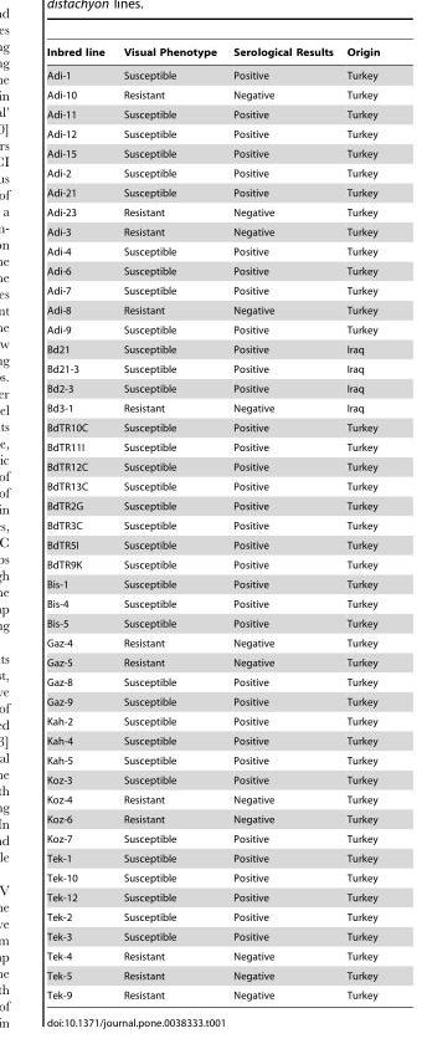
<table><thead><tr><td>Inbred line</td><td>Visual Phenotype</td><td>Serological Results</td><td>Origin</td></tr></thead><tbody><tr><td>Adi-1</td><td>Susceptible</td><td>Positive</td><td>Turkey</td></tr><tr><td>Adi-10</td><td>Resistant</td><td>Negative</td><td>Turkey</td></tr><tr><td>Adi-11</td><td>Susceptible</td><td>Positive</td><td>Turkey</td></tr><tr><td>Adi-12</td><td>Susceptible</td><td>Positive</td><td>Turkey</td></tr><tr><td>Adi-15</td><td>Susceptible</td><td>Positive</td><td>Turkey</td></tr><tr><td>Adi-2</td><td>Susceptible</td><td>Positive</td><td>Turkey</td></tr><tr><td>Adi-21</td><td>Susceptible</td><td>Positive</td><td>Turkey</td></tr><tr><td>Adi-23</td><td>Resistant</td><td>Negative</td><td>Turkey</td></tr><tr><td>Adi-3</td><td>Resistant</td><td>Negative</td><td>Turkey</td></tr><tr><td>Adi-4</td><td>Susceptible</td><td>Positive</td><td>Turkey</td></tr><tr><td>Adi-6</td><td>Susceptible</td><td>Positive</td><td>Turkey</td></tr><tr><td>Adi-7</td><td>Susceptible</td><td>Positive</td><td>Turkey</td></tr><tr><td>Adi-8</td><td>Resistant</td><td>Negative</td><td>Turkey</td></tr><tr><td>Adi-9</td><td>Susceptible</td><td>Positive</td><td>Turkey</td></tr><tr><td>Bd21</td><td>Susceptible</td><td>Positive</td><td>Iraq</td></tr><tr><td>Bd21-3</td><td>Susceptible</td><td>Positive</td><td>Iraq</td></tr><tr><td>Bd2-3</td><td>Susceptible</td><td>Positive</td><td>Iraq</td></tr><tr><td>Bd3-1</td><td>Resistant</td><td>Negative</td><td>Iraq</td></tr><tr><td>BdTR10C</td><td>Susceptible</td><td>Positive</td><td>Turkey</td></tr><tr><td>BdTR11I</td><td>Susceptible</td><td>Positive</td><td>Turkey</td></tr><tr><td>BdTR12C</td><td>Susceptible</td><td>Positive</td><td>Turkey</td></tr><tr><td>BdTR13C</td><td>Susceptible</td><td>Positive</td><td>Turkey</td></tr><tr><td>BdTR2G</td><td>Susceptible</td><td>Positive</td><td>Turkey</td></tr><tr><td>BdTR3C</td><td>Susceptible</td><td>Positive</td><td>Turkey</td></tr><tr><td>BdTR5I</td><td>Susceptible</td><td>Positive</td><td>Turkey</td></tr><tr><td>BdTR9K</td><td>Susceptible</td><td>Positive</td><td>Turkey</td></tr><tr><td>Bis-1</td><td>Susceptible</td><td>Positive</td><td>Turkey</td></tr><tr><td>Bis-4</td><td>Susceptible</td><td>Positive</td><td>Turkey</td></tr><tr><td>Bis-5</td><td>Susceptible</td><td>Positive</td><td>Turkey</td></tr><tr><td>Gaz-4</td><td>Resistant</td><td>Negative</td><td>Turkey</td></tr><tr><td>Gaz-5</td><td>Resistant</td><td>Negative</td><td>Turkey</td></tr><tr><td>Gaz-8</td><td>Susceptible</td><td>Positive</td><td>Turkey</td></tr><tr><td>Gaz-9</td><td>Susceptible</td><td>Positive</td><td>Turkey</td></tr><tr><td>Kah-2</td><td>Susceptible</td><td>Positive</td><td>Turkey</td></tr><tr><td>Kah-4</td><td>Susceptible</td><td>Positive</td><td>Turkey</td></tr><tr><td>Kah-5</td><td>Susceptible</td><td>Positive</td><td>Turkey</td></tr><tr><td>Koz-3</td><td>Susceptible</td><td>Positive</td><td>Turkey</td></tr><tr><td>Koz-4</td><td>Resistant</td><td>Negative</td><td>Turkey</td></tr><tr><td>Koz-6</td><td>Resistant</td><td>Negative</td><td>Turkey</td></tr><tr><td>Koz-7</td><td>Susceptible</td><td>Positive</td><td>Turkey</td></tr><tr><td>Tek-1</td><td>Susceptible</td><td>Positive</td><td>Turkey</td></tr><tr><td>Tek-10</td><td>Susceptible</td><td>Positive</td><td>Turkey</td></tr><tr><td>Tek-12</td><td>Susceptible</td><td>Positive</td><td>Turkey</td></tr><tr><td>Tek-2</td><td>Susceptible</td><td>Positive</td><td>Turkey</td></tr><tr><td>Tek-3</td><td>Susceptible</td><td>Positive</td><td>Turkey</td></tr><tr><td>Tek-4</td><td>Resistant</td><td>Negative</td><td>Turkey</td></tr><tr><td>Tek-5</td><td>Resistant</td><td>Negative</td><td>Turkey</td></tr><tr><td>Tek-9</td><td>Resistant</td><td>Negative</td><td>Turkey</td></tr></tbody></table>